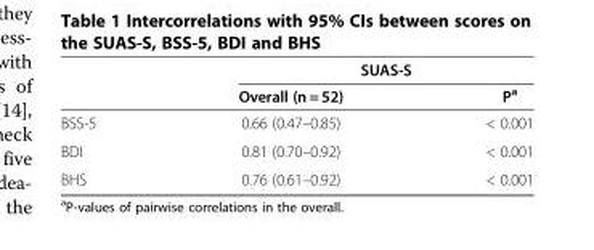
<table><thead><tr><td rowspan="2"></td><td rowspan="2">SUAS-S Overall (n = 52)</td><td rowspan="2">P<sup>a</sup></td></tr><tr></tr></thead><tbody><tr><td>BSS-5</td><td>0.66 (0.47–0.85)</td><td>&lt; 0.001</td></tr><tr><td>BDI</td><td>0.81 (0.70–0.92)</td><td>&lt; 0.001</td></tr><tr><td>BHS</td><td>0.76 (0.61–0.92)</td><td>&lt; 0.001</td></tr></tbody></table>